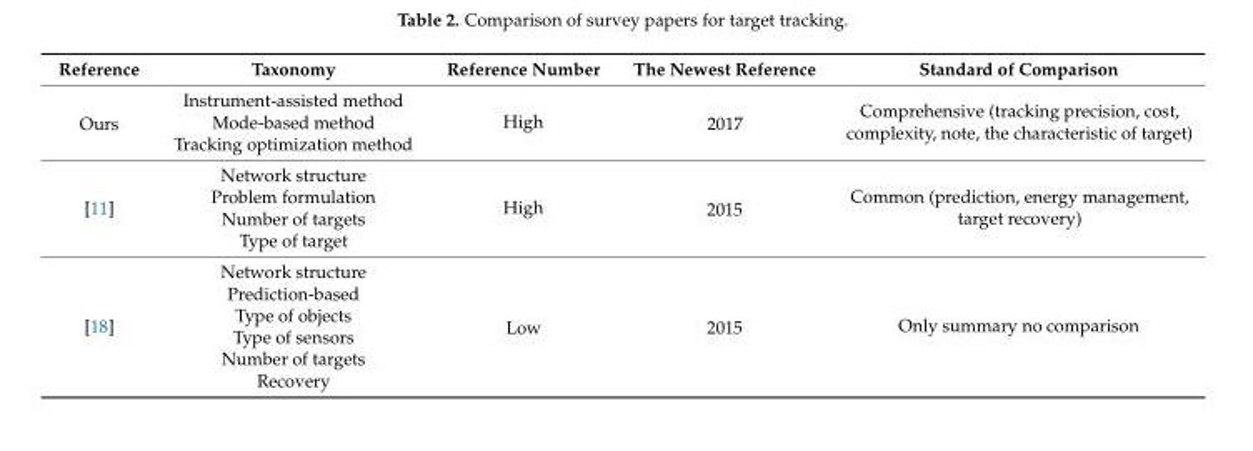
<table><thead><tr><td>Reference</td><td>Taxonomy</td><td>Reference Number</td><td>The Newest Reference</td><td>Standard of Comparison</td></tr></thead><tbody><tr><td rowspan="3">Ours</td><td>Instrument-assisted method</td><td rowspan="3">High</td><td rowspan="3">2017</td><td rowspan="3">Comprehensive (tracking precision, cost, complexity, note, the characteristic of target)</td></tr><tr><td>Mode-based method</td></tr><tr><td>Tracking optimization method</td></tr><tr><td rowspan="4">[11]</td><td>Network structure</td><td rowspan="4">High</td><td rowspan="4">2015</td><td rowspan="4">Common (prediction, energy management, target recovery)</td></tr><tr><td>Problem formulation</td></tr><tr><td>Number of targets</td></tr><tr><td>Type of target</td></tr><tr><td rowspan="6">[18]</td><td>Network structure</td><td rowspan="6">Low</td><td rowspan="6">2015</td><td rowspan="6">Only summary no comparison</td></tr><tr><td>Prediction-based</td></tr><tr><td>Type of objects</td></tr><tr><td>Type of sensors</td></tr><tr><td>Number of targets</td></tr><tr><td>Recovery</td></tr></tbody></table>